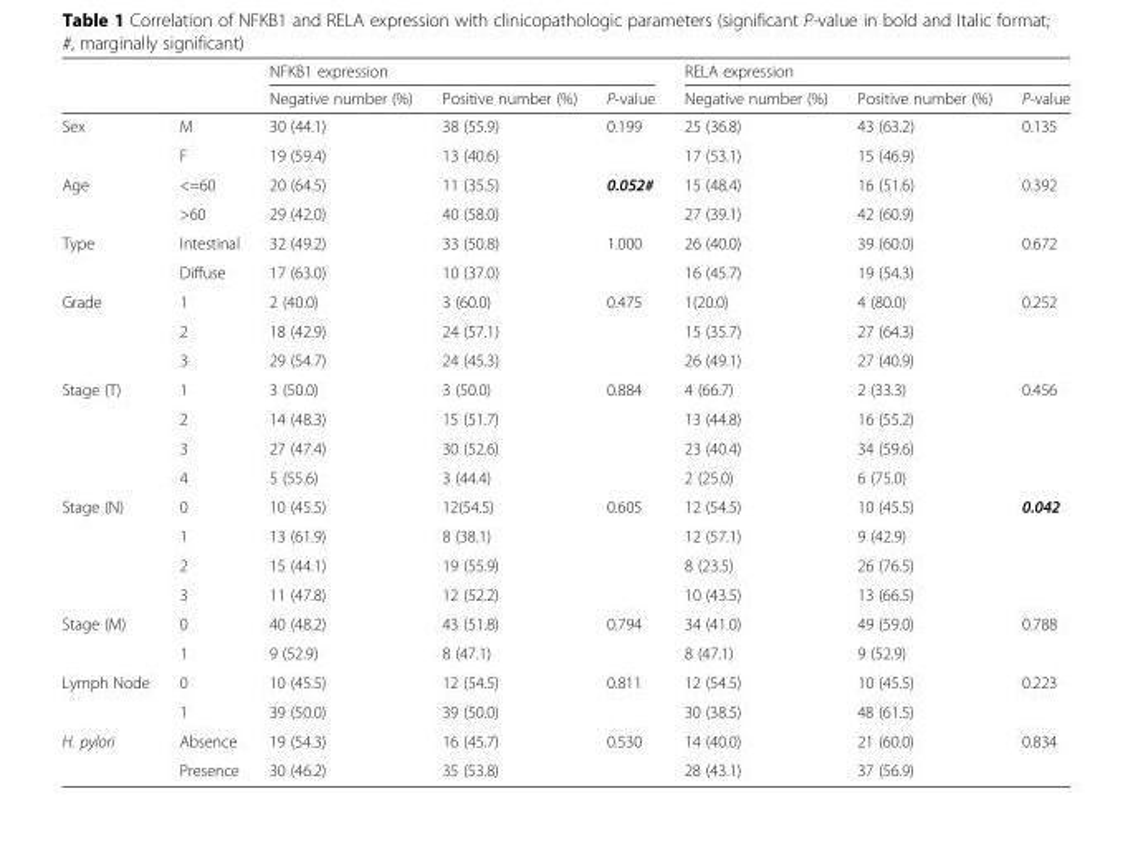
<table><thead><tr><td rowspan="2"></td><td rowspan="2"></td><td colspan="3">NFKB1 expression</td><td colspan="3">RELA expression</td></tr><tr><td>Negative number (%)</td><td>Positive number (%)</td><td>P-value</td><td>Negative number (%)</td><td>Positive number (%)</td><td>P-value</td></tr></thead><tbody><tr><td rowspan="2">Sex</td><td>M</td><td>30 (44.1)</td><td>38 (55.9)</td><td>0.199</td><td>25 (36.8)</td><td>43 (63.2)</td><td>0.135</td></tr><tr><td>F</td><td>19 (59.4)</td><td>13 (40.6)</td><td></td><td>17 (53.1)</td><td>15 (46.9)</td><td></td></tr><tr><td rowspan="2">Age</td><td>&lt;=60</td><td>20 (64.5)</td><td>11 (35.5)</td><td>0.052#</td><td>15 (48.4)</td><td>16 (51.6)</td><td>0.392</td></tr><tr><td>&gt;60</td><td>29 (42.0)</td><td>40 (58.0)</td><td></td><td>27 (39.1)</td><td>42 (60.9)</td><td></td></tr><tr><td rowspan="2">Type</td><td>Intestinal</td><td>32 (49.2)</td><td>33 (50.8)</td><td>1.000</td><td>26 (40.0)</td><td>39 (60.0)</td><td>0.672</td></tr><tr><td>Diffuse</td><td>17 (63.0)</td><td>10 (37.0)</td><td></td><td>16 (45.7)</td><td>19 (54.3)</td><td></td></tr><tr><td rowspan="3">Grade</td><td>1</td><td>2 (40.0)</td><td>3 (60.0)</td><td>0.475</td><td>1(20.0)</td><td>4 (80.0)</td><td>0.252</td></tr><tr><td>2</td><td>18 (42.9)</td><td>24 (57.1)</td><td></td><td>15 (35.7)</td><td>27 (64.3)</td><td></td></tr><tr><td>3</td><td>29 (54.7)</td><td>24 (45.3)</td><td></td><td>26 (49.1)</td><td>27 (40.9)</td><td></td></tr><tr><td rowspan="4">Stage (T)</td><td>1</td><td>3 (50.0)</td><td>3 (50.0)</td><td>0.884</td><td>4 (66.7)</td><td>2 (33.3)</td><td>0.456</td></tr><tr><td>2</td><td>14 (48.3)</td><td>15 (51.7)</td><td></td><td>13 (44.8)</td><td>16 (55.2)</td><td></td></tr><tr><td>3</td><td>27 (47.4)</td><td>30 (52.6)</td><td></td><td>23 (40.4)</td><td>34 (59.6)</td><td></td></tr><tr><td>4</td><td>5 (55.6)</td><td>3 (44.4)</td><td></td><td>2 (25.0)</td><td>6 (75.0)</td><td></td></tr><tr><td rowspan="4">Stage (N)</td><td>0</td><td>10 (45.5)</td><td>12(54.5)</td><td>0.605</td><td>12 (54.5)</td><td>10 (45.5)</td><td>0.042</td></tr><tr><td>1</td><td>13 (61.9)</td><td>8 (38.1)</td><td></td><td>12 (57.1)</td><td>9 (42.9)</td><td></td></tr><tr><td>2</td><td>15 (44.1)</td><td>19 (55.9)</td><td></td><td>8 (23.5)</td><td>26 (76.5)</td><td></td></tr><tr><td>3</td><td>11 (47.8)</td><td>12 (52.2)</td><td></td><td>10 (43.5)</td><td>13 (66.5)</td><td></td></tr><tr><td rowspan="2">Stage (M)</td><td>0</td><td>40 (48.2)</td><td>43 (51.8)</td><td>0.794</td><td>34 (41.0)</td><td>49 (59.0)</td><td>0.788</td></tr><tr><td>1</td><td>9 (52.9)</td><td>8 (47.1)</td><td></td><td>8 (47.1)</td><td>9 (52.9)</td><td></td></tr><tr><td rowspan="2">Lymph Node</td><td>0</td><td>10 (45.5)</td><td>12 (54.5)</td><td>0.811</td><td>12 (54.5)</td><td>10 (45.5)</td><td>0.223</td></tr><tr><td>1</td><td>39 (50.0)</td><td>39 (50.0)</td><td></td><td>30 (38.5)</td><td>48 (61.5)</td><td></td></tr><tr><td rowspan="2">H. pylori</td><td>Absence</td><td>19 (54.3)</td><td>16 (45.7)</td><td>0.530</td><td>14 (40.0)</td><td>21 (60.0)</td><td>0.834</td></tr><tr><td>Presence</td><td>30 (46.2)</td><td>35 (53.8)</td><td></td><td>28 (43.1)</td><td>37 (56.9)</td><td></td></tr></tbody></table>